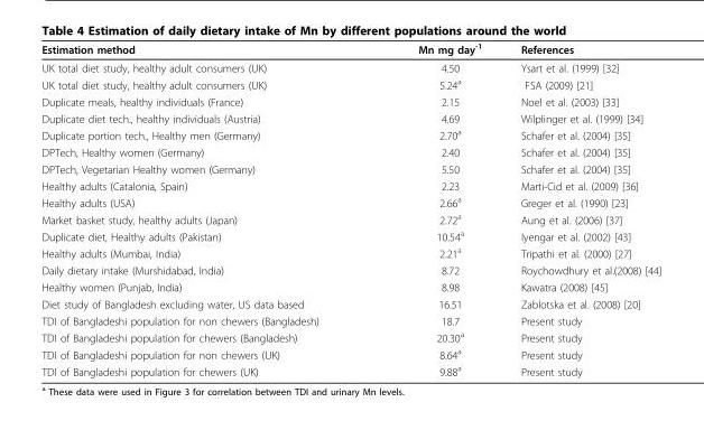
<table><thead><tr><td>Estimation method</td><td>Mn mg day<sup>-1</sup></td><td>References</td></tr></thead><tbody><tr><td>UK total diet study, healthy adult consumers (UK)</td><td>4.50</td><td>Ysart et al. (1999) [32]</td></tr><tr><td>UK total diet study, healthy adult consumers (UK)</td><td>5.24<sup>a</sup></td><td>FSA (2009) [21]</td></tr><tr><td>Duplicate meals, healthy individuals (France)</td><td>2.15</td><td>Noel et al. (2003) [33]</td></tr><tr><td>Duplicate diet tech., healthy individuals (Austria)</td><td>4.69</td><td>Wilplinger et al. (1999) [34]</td></tr><tr><td>Duplicate portion tech., Healthy men (Germany)</td><td>2.70<sup>a</sup></td><td>Schafer et al. (2004) [35]</td></tr><tr><td>DPTech, Healthy women (Germany)</td><td>2.40</td><td>Schafer et al. (2004) [35]</td></tr><tr><td>DPTech, Vegetarian Healthy women (Germany)</td><td>5.50</td><td>Schafer et al. (2004) [35]</td></tr><tr><td>Healthy adults (Catalonia, Spain)</td><td>2.23</td><td>Marti-Cid et al. (2009) [36]</td></tr><tr><td>Healthy adults (USA)</td><td>2.66<sup>a</sup></td><td>Greger et al. (1990) [23]</td></tr><tr><td>Market basket study, healthy adults (Japan)</td><td>2.72<sup>a</sup></td><td>Aung et al. (2006) [37]</td></tr><tr><td>Duplicate diet, Healthy adults (Pakistan)</td><td>10.54<sup>a</sup></td><td>Iyengar et al. (2002) [43]</td></tr><tr><td>Healthy adults (Mumbai, India)</td><td>2.21<sup>a</sup></td><td>Tripathi et al. (2000) [27]</td></tr><tr><td>Daily dietary intake (Murshidabad, India)</td><td>8.72</td><td>Roychowdhury et al.(2008) [44]</td></tr><tr><td>Healthy women (Punjab, India)</td><td>8.98</td><td>Kawatra (2008) [45]</td></tr><tr><td>Diet study of Bangladesh excluding water, US data based</td><td>16.51</td><td>Zablotska et al. (2008) [20]</td></tr><tr><td>TDI of Bangladeshi population for non chewers (Bangladesh)</td><td>18.7</td><td>Present study</td></tr><tr><td>TDI of Bangladeshi population for chewers (Bangladesh)</td><td>20.30<sup>a</sup></td><td>Present study</td></tr><tr><td>TDI of Bangladeshi population for non chewers (UK)</td><td>8.64<sup>a</sup></td><td>Present study</td></tr><tr><td>TDI of Bangladeshi population for chewers (UK)</td><td>9.88<sup>a</sup></td><td>Present study</td></tr></tbody></table>